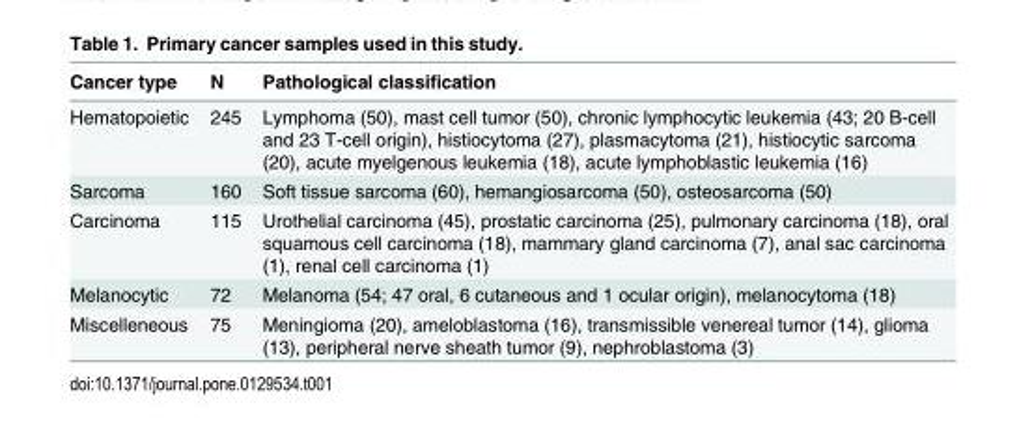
<table><thead><tr><td>Cancer type</td><td>N</td><td>Pathological classification</td></tr></thead><tbody><tr><td>Hematopoietic</td><td>245</td><td>Lymphoma (50), mast cell tumor (50), chronic lymphocytic leukemia (43; 20 B-cell and 23 T-cell origin), histiocytoma (27), plasmacytoma (21), histiocytic sarcoma (20), acute myelgenous leukemia (18), acute lymphoblastic leukemia (16)</td></tr><tr><td>Sarcoma</td><td>160</td><td>Soft tissue sarcoma (60), hemangiosarcoma (50), osteosarcoma (50)</td></tr><tr><td>Carcinoma</td><td>115</td><td>Urothelial carcinoma (45), prostatic carcinoma (25), pulmonary carcinoma (18), oral squamous cell carcinoma (18), mammary gland carcinoma (7), anal sac carcinoma (1), renal cell carcinoma (1)</td></tr><tr><td>Melanocytic</td><td>72</td><td>Melanoma (54; 47 oral, 6 cutaneous and 1 ocular origin), melanocytoma (18)</td></tr><tr><td>Miscelleneous</td><td>75</td><td>Meningioma (20), ameloblastoma (16), transmissible venereal tumor (14), glioma (13), peripheral nerve sheath tumor (9), nephroblastoma (3)</td></tr></tbody></table>